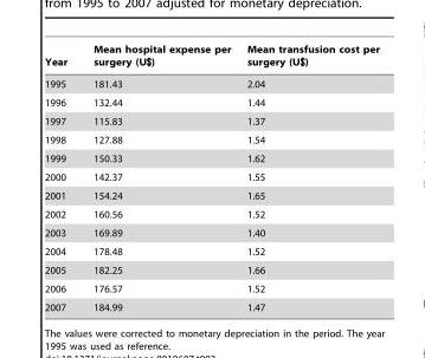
<table><thead><tr><td>Year</td><td>Mean hospital expense per surgery (U$)</td><td>Mean transfusion cost per surgery (U$)</td></tr></thead><tbody><tr><td>1995</td><td>181.43</td><td>2.04</td></tr><tr><td>1996</td><td>132.44</td><td>1.44</td></tr><tr><td>1997</td><td>115.83</td><td>1.37</td></tr><tr><td>1998</td><td>127.88</td><td>1.54</td></tr><tr><td>1999</td><td>150.33</td><td>1.62</td></tr><tr><td>2000</td><td>142.37</td><td>1.55</td></tr><tr><td>2001</td><td>154.24</td><td>1.65</td></tr><tr><td>2002</td><td>160.56</td><td>1.52</td></tr><tr><td>2003</td><td>169.89</td><td>1.40</td></tr><tr><td>2004</td><td>178.48</td><td>1.52</td></tr><tr><td>2005</td><td>182.25</td><td>1.66</td></tr><tr><td>2006</td><td>176.57</td><td>1.52</td></tr><tr><td>2007</td><td>184.99</td><td>1.47</td></tr></tbody></table>